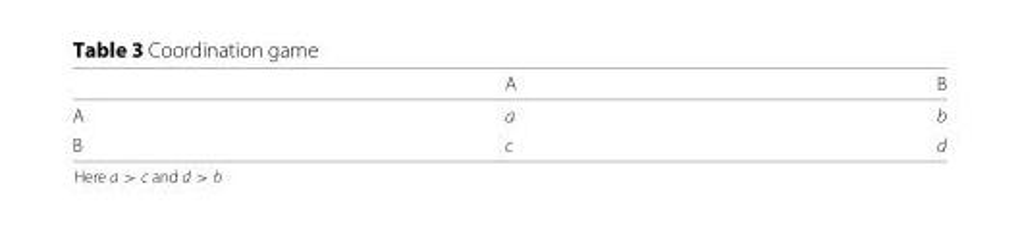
<table><thead><tr><td></td><td>A</td><td>B</td></tr></thead><tbody><tr><td>A</td><td>a</td><td>b</td></tr><tr><td>B</td><td>c</td><td>d</td></tr></tbody></table>